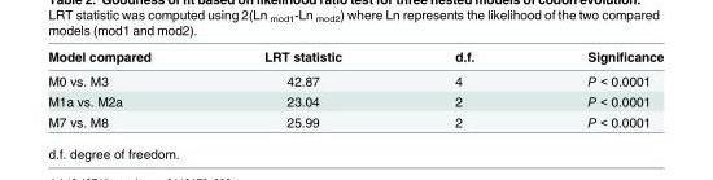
<table><thead><tr><td>Model compared</td><td>LRT statistic</td><td>d.f.</td><td>Significance</td></tr></thead><tbody><tr><td>M0 vs. M3</td><td>42.87</td><td>4</td><td>P &lt; 0.0001</td></tr><tr><td>M1a vs. M2a</td><td>23.04</td><td>2</td><td>P &lt; 0.0001</td></tr><tr><td>M7 vs. M8</td><td>25.99</td><td>2</td><td>P &lt; 0.0001</td></tr></tbody></table>